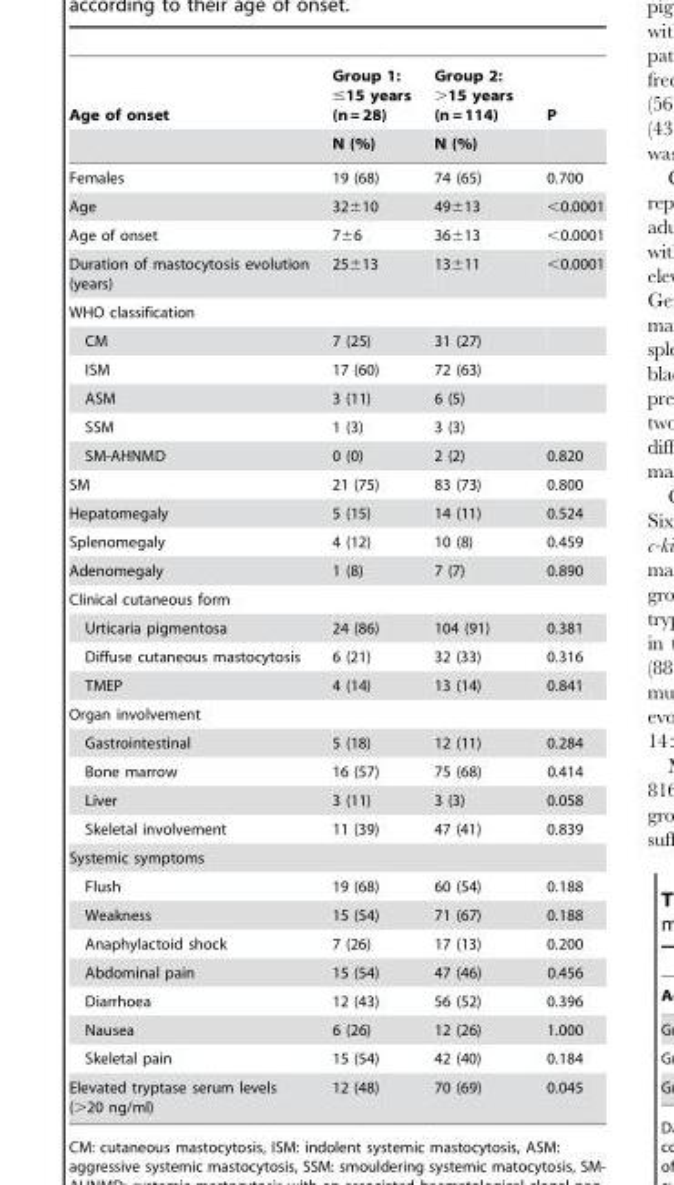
<table><thead><tr><td rowspan="2">Age of onset</td><td rowspan="2">Group 1: ≤15 years (n = 28) N (%)</td><td rowspan="2">Group 2: &gt;15 years (n = 114) N (%)</td><td rowspan="2">P</td></tr><tr></tr></thead><tbody><tr><td>Females</td><td>19 (68)</td><td>74 (65)</td><td>0.700</td></tr><tr><td>Age</td><td>32±10</td><td>49±13</td><td>&lt;0.0001</td></tr><tr><td>Age of onset</td><td>7±6</td><td>36±13</td><td>&lt;0.0001</td></tr><tr><td>Duration of mastocytosis evolution (years)</td><td>25±13</td><td>13±11</td><td>&lt;0.0001</td></tr><tr><td colspan="4">WHO classification</td></tr><tr><td>CM</td><td>7 (25)</td><td>31 (27)</td><td></td></tr><tr><td>ISM</td><td>17 (60)</td><td>72 (63)</td><td></td></tr><tr><td>ASM</td><td>3 (11)</td><td>6 (5)</td><td></td></tr><tr><td>SSM</td><td>1 (3)</td><td>3 (3)</td><td></td></tr><tr><td>SM-AHNMD</td><td>0 (0)</td><td>2 (2)</td><td>0.820</td></tr><tr><td>SM</td><td>21 (75)</td><td>83 (73)</td><td>0.800</td></tr><tr><td>Hepatomegaly</td><td>5 (15)</td><td>14 (11)</td><td>0.524</td></tr><tr><td>Splenomegaly</td><td>4 (12)</td><td>10 (8)</td><td>0.459</td></tr><tr><td>Adenomegaly</td><td>1 (8)</td><td>7 (7)</td><td>0.890</td></tr><tr><td colspan="4">Clinical cutaneous form</td></tr><tr><td>Urticaria pigmentosa</td><td>24 (86)</td><td>104 (91)</td><td>0.381</td></tr><tr><td>Diffuse cutaneous mastocytosis</td><td>6 (21)</td><td>32 (33)</td><td>0.316</td></tr><tr><td>TMEP</td><td>4 (14)</td><td>13 (14)</td><td>0.841</td></tr><tr><td colspan="4">Organ involvement</td></tr><tr><td>Gastrointestinal</td><td>5 (18)</td><td>12 (11)</td><td>0.284</td></tr><tr><td>Bone marrow</td><td>16 (57)</td><td>75 (68)</td><td>0.414</td></tr><tr><td>Liver</td><td>3 (11)</td><td>3 (3)</td><td>0.058</td></tr><tr><td>Skeletal involvement</td><td>11 (39)</td><td>47 (41)</td><td>0.839</td></tr><tr><td colspan="4">Systemic symptoms</td></tr><tr><td>Flush</td><td>19 (68)</td><td>60 (54)</td><td>0.188</td></tr><tr><td>Weakness</td><td>15 (54)</td><td>71 (67)</td><td>0.188</td></tr><tr><td>Anaphylactoid shock</td><td>7 (26)</td><td>17 (13)</td><td>0.200</td></tr><tr><td>Abdominal pain</td><td>15 (54)</td><td>47 (46)</td><td>0.456</td></tr><tr><td>Diarrhoea</td><td>12 (43)</td><td>56 (52)</td><td>0.396</td></tr><tr><td>Nausea</td><td>6 (26)</td><td>12 (26)</td><td>1.000</td></tr><tr><td>Skeletal pain</td><td>15 (54)</td><td>42 (40)</td><td>0.184</td></tr><tr><td>Elevated tryptase serum levels (&gt;20 ng/ml)</td><td>12 (48)</td><td>70 (69)</td><td>0.045</td></tr></tbody></table>